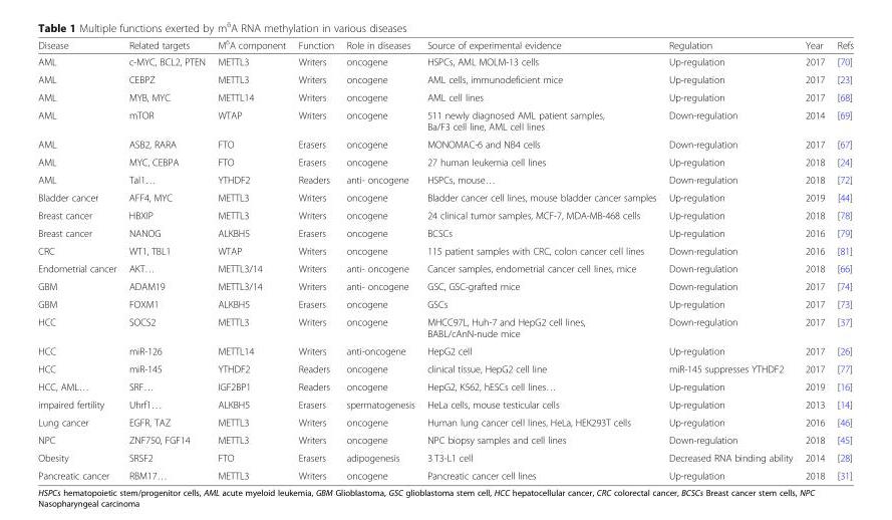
<table><thead><tr><td>Disease</td><td>Related targets</td><td>M<sup>6</sup>A component</td><td>Function</td><td>Role in diseases</td><td>Source of experimental evidence</td><td>Regulation</td><td>Year</td><td>Refs</td></tr></thead><tbody><tr><td>AML</td><td>c-MYC, BCL2, PTEN</td><td>METTL3</td><td>Writers</td><td>oncogene</td><td>HSPCs, AML MOLM-13 cells</td><td>Up-regulation</td><td>2017</td><td>[70]</td></tr><tr><td>AML</td><td>CEBPZ</td><td>METTL3</td><td>Writers</td><td>oncogene</td><td>AML cells, immunodeficient mice</td><td>Up-regulation</td><td>2017</td><td>[23]</td></tr><tr><td>AML</td><td>MYB, MYC</td><td>METTL14</td><td>Writers</td><td>oncogene</td><td>AML cell lines</td><td>Up-regulation</td><td>2017</td><td>[68]</td></tr><tr><td>AML</td><td>mTOR</td><td>WTAP</td><td>Writers</td><td>oncogene</td><td>511 newly diagnosed AML patient samples, Ba/F3 cell line, AML cell lines</td><td>Down-regulation</td><td>2014</td><td>[69]</td></tr><tr><td>AML</td><td>ASB2, RARA</td><td>FTO</td><td>Erasers</td><td>oncogene</td><td>MONOMAC-6 and NB4 cells</td><td>Down-regulation</td><td>2017</td><td>[67]</td></tr><tr><td>AML</td><td>MYC, CEBPA</td><td>FTO</td><td>Erasers</td><td>oncogene</td><td>27 human leukemia cell lines</td><td>Up-regulation</td><td>2018</td><td>[24]</td></tr><tr><td>AML</td><td>Tal1…</td><td>YTHDF2</td><td>Readers</td><td>anti- oncogene</td><td>HSPCs, mouse…</td><td>Down-regulation</td><td>2018</td><td>[72]</td></tr><tr><td>Bladder cancer</td><td>AFF4, MYC</td><td>METTL3</td><td>Writers</td><td>oncogene</td><td>Bladder cancer cell lines, mouse bladder cancer samples</td><td>Up-regulation</td><td>2019</td><td>[44]</td></tr><tr><td>Breast cancer</td><td>HBXIP</td><td>METTL3</td><td>Writers</td><td>oncogene</td><td>24 clinical tumor samples, MCF-7, MDA-MB-468 cells</td><td>Up-regulation</td><td>2018</td><td>[78]</td></tr><tr><td>Breast cancer</td><td>NANOG</td><td>ALKBH5</td><td>Erasers</td><td>oncogene</td><td>BCSCs</td><td>Up-regulation</td><td>2016</td><td>[79]</td></tr><tr><td>CRC</td><td>WT1, TBL1</td><td>WTAP</td><td>Writers</td><td>oncogene</td><td>115 patient samples with CRC, colon cancer cell lines</td><td>Down-regulation</td><td>2016</td><td>[81]</td></tr><tr><td>Endometrial cancer</td><td>AKT…</td><td>METTL3/14</td><td>Writers</td><td>anti- oncogene</td><td>Cancer samples, endometrial cancer cell lines, mice</td><td>Down-regulation</td><td>2018</td><td>[66]</td></tr><tr><td>GBM</td><td>ADAM19</td><td>METTL3/14</td><td>Writers</td><td>anti- oncogene</td><td>GSC, GSC-grafted mice</td><td>Down-regulation</td><td>2017</td><td>[74]</td></tr><tr><td>GBM</td><td>FOXM1</td><td>ALKBH5</td><td>Erasers</td><td>oncogene</td><td>GSCs</td><td>Up-regulation</td><td>2017</td><td>[73]</td></tr><tr><td>HCC</td><td>SOCS2</td><td>METTL3</td><td>Writers</td><td>oncogene</td><td>MHCC97L, Huh-7 and HepG2 cell lines, BABL/cAnN-nude mice</td><td>Down-regulation</td><td>2017</td><td>[37]</td></tr><tr><td>HCC</td><td>miR-126</td><td>METTL14</td><td>Writers</td><td>anti-oncogene</td><td>HepG2 cell</td><td>Up-regulation</td><td>2017</td><td>[26]</td></tr><tr><td>HCC</td><td>miR-145</td><td>YTHDF2</td><td>Readers</td><td>oncogene</td><td>clinical tissue, HepG2 cell line</td><td>miR-145 suppresses YTHDF2</td><td>2017</td><td>[77]</td></tr><tr><td>HCC, AML…</td><td>SRF…</td><td>IGF2BP1</td><td>Readers</td><td>oncogene</td><td>HepG2, K562, hESCs cell lines…</td><td>Up-regulation</td><td>2019</td><td>[16]</td></tr><tr><td>impaired fertility</td><td>Uhrf1…</td><td>ALKBH5</td><td>Erasers</td><td>spermatogenesis</td><td>HeLa cells, mouse testicular cells</td><td>Up-regulation</td><td>2013</td><td>[14]</td></tr><tr><td>Lung cancer</td><td>EGFR, TAZ</td><td>METTL3</td><td>Writers</td><td>oncogene</td><td>Human lung cancer cell lines, HeLa, HEK293T cells</td><td>Up-regulation</td><td>2016</td><td>[46]</td></tr><tr><td>NPC</td><td>ZNF750, FGF14</td><td>METTL3</td><td>Writers</td><td>oncogene</td><td>NPC biopsy samples and cell lines</td><td>Down-regulation</td><td>2018</td><td>[45]</td></tr><tr><td>Obesity</td><td>SRSF2</td><td>FTO</td><td>Erasers</td><td>adipogenesis</td><td>3 T3-L1 cell</td><td>Decreased RNA binding ability</td><td>2014</td><td>[28]</td></tr><tr><td>Pancreatic cancer</td><td>RBM17…</td><td>METTL3</td><td>Writers</td><td>oncogene</td><td>Pancreatic cancer cell lines</td><td>Up-regulation</td><td>2018</td><td>[31]</td></tr></tbody></table>